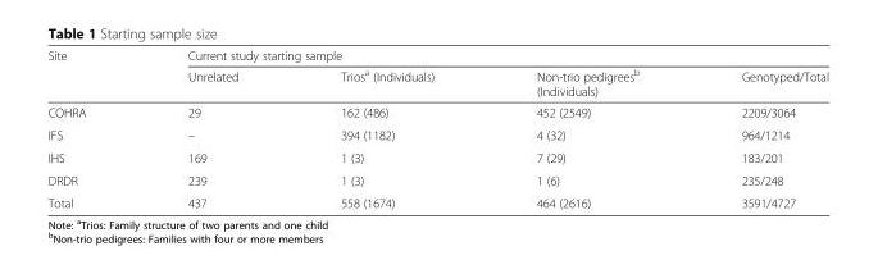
<table><thead><tr><td rowspan="2">Site</td><td colspan="4">Current study starting sample</td></tr><tr><td>Unrelated</td><td>Trios<sup>a</sup> (Individuals)</td><td>Non-trio pedigrees<sup>b</sup> (Individuals)</td><td>Genotyped/Total</td></tr></thead><tbody><tr><td>COHRA</td><td>29</td><td>162 (486)</td><td>452 (2549)</td><td>2209/3064</td></tr><tr><td>IFS</td><td>–</td><td>394 (1182)</td><td>4 (32)</td><td>964/1214</td></tr><tr><td>IHS</td><td>169</td><td>1 (3)</td><td>7 (29)</td><td>183/201</td></tr><tr><td>DRDR</td><td>239</td><td>1 (3)</td><td>1 (6)</td><td>235/248</td></tr><tr><td>Total</td><td>437</td><td>558 (1674)</td><td>464 (2616)</td><td>3591/4727</td></tr></tbody></table>